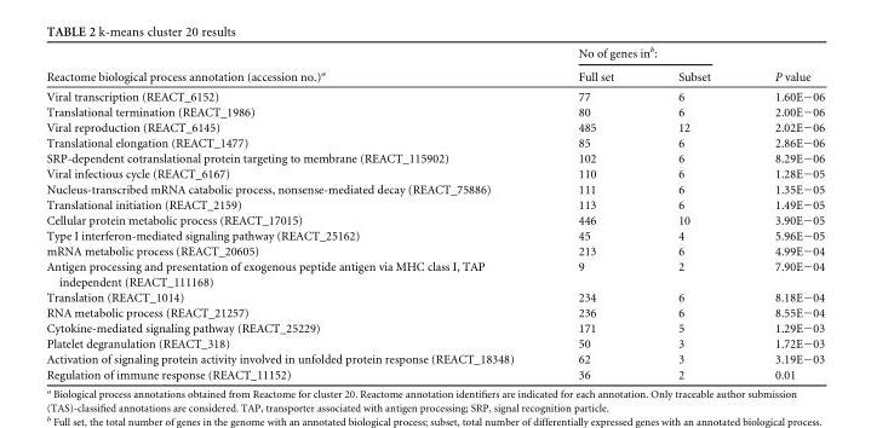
<table><thead><tr><td rowspan="2">Reactome biological process annotation (accession no.)<sup>a</sup></td><td colspan="2">No of genes in<sup>b</sup>:</td><td rowspan="2">P value</td></tr><tr><td>Full set</td><td>Subset</td></tr></thead><tbody><tr><td>Viral transcription (REACT_6152)</td><td>77</td><td>6</td><td>1.60E−06</td></tr><tr><td>Translational termination (REACT_1986)</td><td>80</td><td>6</td><td>2.00E−06</td></tr><tr><td>Viral reproduction (REACT_6145)</td><td>485</td><td>12</td><td>2.02E−06</td></tr><tr><td>Translational elongation (REACT_1477)</td><td>85</td><td>6</td><td>2.86E−06</td></tr><tr><td>SRP-dependent cotranslational protein targeting to membrane (REACT_115902)</td><td>102</td><td>6</td><td>8.29E−06</td></tr><tr><td>Viral infectious cycle (REACT_6167)</td><td>110</td><td>6</td><td>1.28E−05</td></tr><tr><td>Nucleus-transcribed mRNA catabolic process, nonsense-mediated decay (REACT_75886)</td><td>111</td><td>6</td><td>1.35E−05</td></tr><tr><td>Translational initiation (REACT_2159)</td><td>113</td><td>6</td><td>1.49E−05</td></tr><tr><td>Cellular protein metabolic process (REACT_17015)</td><td>446</td><td>10</td><td>3.90E−05</td></tr><tr><td>Type I interferon-mediated signaling pathway (REACT_25162)</td><td>45</td><td>4</td><td>5.96E−05</td></tr><tr><td>mRNA metabolic process (REACT_20605)</td><td>213</td><td>6</td><td>4.99E−04</td></tr><tr><td>Antigen processing and presentation of exogenous peptide antigen via MHC class I, TAP independent (REACT_111168)</td><td>9</td><td>2</td><td>7.90E−04</td></tr><tr><td>Translation (REACT_1014)</td><td>234</td><td>6</td><td>8.18E−04</td></tr><tr><td>RNA metabolic process (REACT_21257)</td><td>236</td><td>6</td><td>8.55E−04</td></tr><tr><td>Cytokine-mediated signaling pathway (REACT_25229)</td><td>171</td><td>5</td><td>1.29E−03</td></tr><tr><td>Platelet degranulation (REACT_318)</td><td>50</td><td>3</td><td>1.72E−03</td></tr><tr><td>Activation of signaling protein activity involved in unfolded protein response (REACT_18348)</td><td>62</td><td>3</td><td>3.19E−03</td></tr><tr><td>Regulation of immune response (REACT_11152)</td><td>36</td><td>2</td><td>0.01</td></tr></tbody></table>